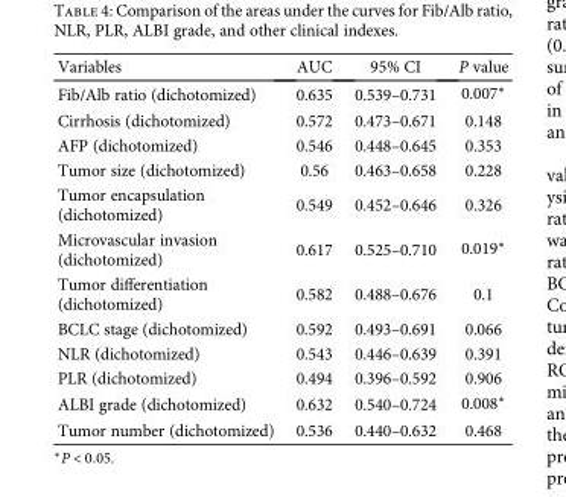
<table><thead><tr><td>Variables</td><td>AUC</td><td>95% CI</td><td>P value</td></tr></thead><tbody><tr><td>Fib/Alb ratio (dichotomized)</td><td>0.635</td><td>0.539–0.731</td><td>0.007∗</td></tr><tr><td>Cirrhosis (dichotomized)</td><td>0.572</td><td>0.473–0.671</td><td>0.148</td></tr><tr><td>AFP (dichotomized)</td><td>0.546</td><td>0.448–0.645</td><td>0.353</td></tr><tr><td>Tumor size (dichotomized)</td><td>0.56</td><td>0.463–0.658</td><td>0.228</td></tr><tr><td>Tumor encapsulation (dichotomized)</td><td>0.549</td><td>0.452–0.646</td><td>0.326</td></tr><tr><td>Microvascular invasion (dichotomized)</td><td>0.617</td><td>0.525–0.710</td><td>0.019∗</td></tr><tr><td>Tumor differentiation (dichotomized)</td><td>0.582</td><td>0.488–0.676</td><td>0.1</td></tr><tr><td>BCLC stage (dichotomized)</td><td>0.592</td><td>0.493–0.691</td><td>0.066</td></tr><tr><td>NLR (dichotomized)</td><td>0.543</td><td>0.446–0.639</td><td>0.391</td></tr><tr><td>PLR (dichotomized)</td><td>0.494</td><td>0.396–0.592</td><td>0.906</td></tr><tr><td>ALBI grade (dichotomized)</td><td>0.632</td><td>0.540–0.724</td><td>0.008∗</td></tr><tr><td>Tumor number (dichotomized)</td><td>0.536</td><td>0.440–0.632</td><td>0.468</td></tr></tbody></table>